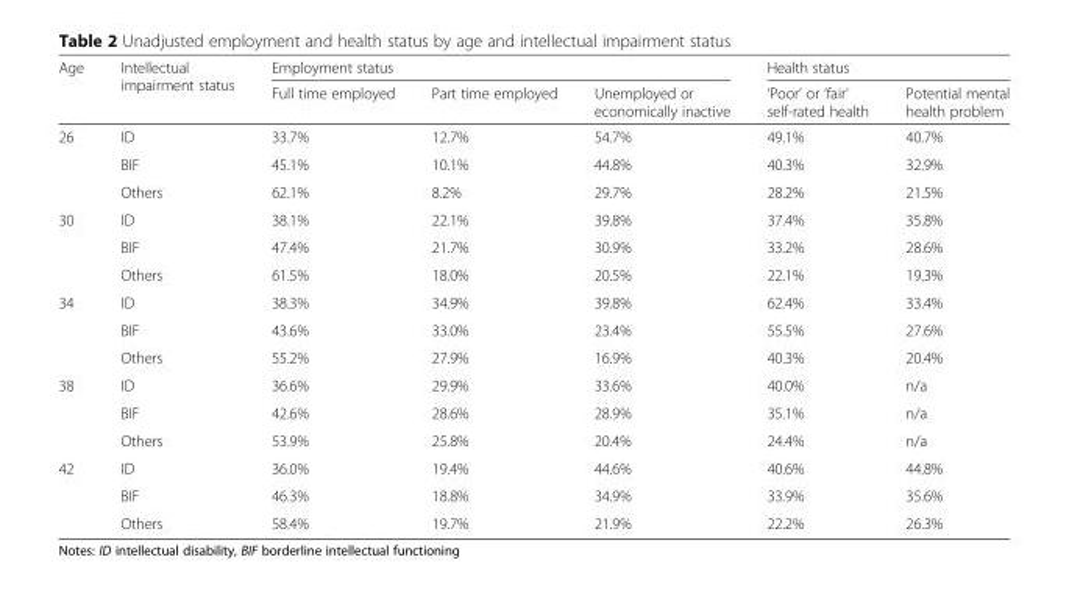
<table><thead><tr><td rowspan="2">Age</td><td rowspan="2">Intellectual impairment status</td><td colspan="3">Employment status</td><td colspan="2">Health status</td></tr><tr><td>Full time employed</td><td>Part time employed</td><td>Unemployed or economically inactive</td><td>‘Poor’ or ‘fair’ self-rated health</td><td>Potential mental health problem</td></tr></thead><tbody><tr><td rowspan="3">26</td><td>ID</td><td>33.7%</td><td>12.7%</td><td>54.7%</td><td>49.1%</td><td>40.7%</td></tr><tr><td>BIF</td><td>45.1%</td><td>10.1%</td><td>44.8%</td><td>40.3%</td><td>32.9%</td></tr><tr><td>Others</td><td>62.1%</td><td>8.2%</td><td>29.7%</td><td>28.2%</td><td>21.5%</td></tr><tr><td rowspan="3">30</td><td>ID</td><td>38.1%</td><td>22.1%</td><td>39.8%</td><td>37.4%</td><td>35.8%</td></tr><tr><td>BIF</td><td>47.4%</td><td>21.7%</td><td>30.9%</td><td>33.2%</td><td>28.6%</td></tr><tr><td>Others</td><td>61.5%</td><td>18.0%</td><td>20.5%</td><td>22.1%</td><td>19.3%</td></tr><tr><td rowspan="3">34</td><td>ID</td><td>38.3%</td><td>34.9%</td><td>39.8%</td><td>62.4%</td><td>33.4%</td></tr><tr><td>BIF</td><td>43.6%</td><td>33.0%</td><td>23.4%</td><td>55.5%</td><td>27.6%</td></tr><tr><td>Others</td><td>55.2%</td><td>27.9%</td><td>16.9%</td><td>40.3%</td><td>20.4%</td></tr><tr><td rowspan="3">38</td><td>ID</td><td>36.6%</td><td>29.9%</td><td>33.6%</td><td>40.0%</td><td>n/a</td></tr><tr><td>BIF</td><td>42.6%</td><td>28.6%</td><td>28.9%</td><td>35.1%</td><td>n/a</td></tr><tr><td>Others</td><td>53.9%</td><td>25.8%</td><td>20.4%</td><td>24.4%</td><td>n/a</td></tr><tr><td rowspan="3">42</td><td>ID</td><td>36.0%</td><td>19.4%</td><td>44.6%</td><td>40.6%</td><td>44.8%</td></tr><tr><td>BIF</td><td>46.3%</td><td>18.8%</td><td>34.9%</td><td>33.9%</td><td>35.6%</td></tr><tr><td>Others</td><td>58.4%</td><td>19.7%</td><td>21.9%</td><td>22.2%</td><td>26.3%</td></tr></tbody></table>